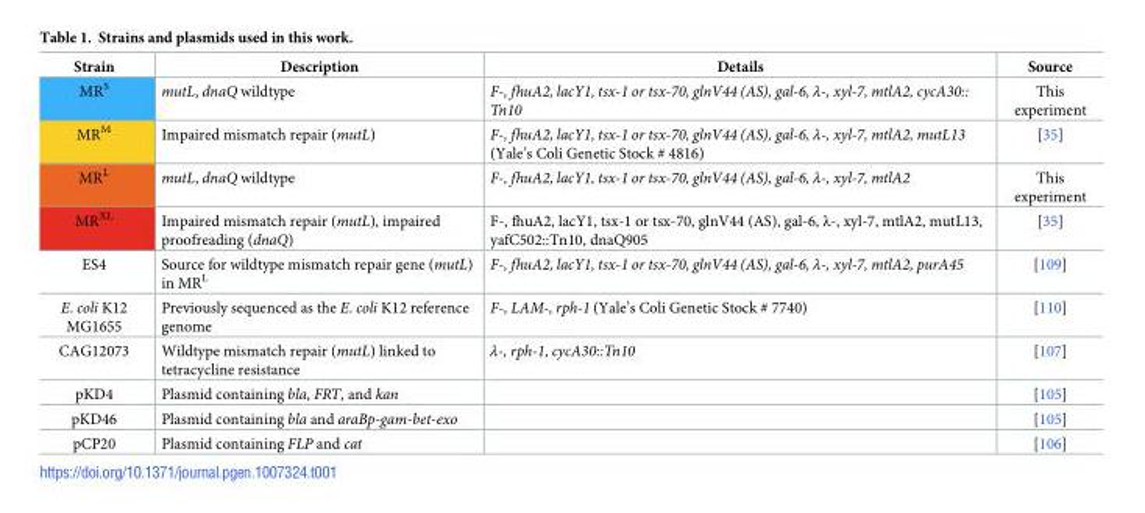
<table><thead><tr><td>Strain</td><td>Description</td><td>Details</td><td>Source</td></tr></thead><tbody><tr><td>MR<sup>S</sup></td><td>mutL, dnaQ wildtype</td><td>F-, fhuA2, lacY1, tsx-1 or tsx-70, glnV44 (AS), gal-6, λ-, xyl-7, mtlA2, cycA30:: Tn10</td><td>This experiment</td></tr><tr><td>MR<sup>M</sup></td><td>Impaired mismatch repair (mutL)</td><td>F-, fhuA2, lacY1, tsx-1 or tsx-70, glnV44 (AS), gal-6, λ-, xyl-7, mtlA2, mutL13 (Yale’s Coli Genetic Stock # 4816)</td><td>[35]</td></tr><tr><td>MR<sup>L</sup></td><td>mutL, dnaQ wildtype</td><td>F-, fhuA2, lacY1, tsx-1 or tsx-70, glnV44 (AS), gal-6, λ-, xyl-7, mtlA2</td><td>This experiment</td></tr><tr><td>MR<sup>XL</sup></td><td>Impaired mismatch repair (mutL), impaired proofreading (dnaQ)</td><td>F-, fhuA2, lacY1, tsx-1 or tsx-70, glnV44 (AS), gal-6, λ-, xyl-7, mtlA2, mutL13, yafC502::Tn10, dnaQ905</td><td>[35]</td></tr><tr><td>ES4</td><td>Source for wildtype mismatch repair gene (mutL) in MR<sup>L</sup></td><td>F-, fhuA2, lacY1, tsx-1 or tsx-70, glnV44 (AS), gal-6, λ-, xyl-7, mtlA2, purA45</td><td>[109]</td></tr><tr><td>E. coli K12 MG1655</td><td>Previously sequenced as the E. coli K12 reference genome</td><td>F-, LAM-, rph-1 (Yale’s Coli Genetic Stock # 7740)</td><td>[110]</td></tr><tr><td>CAG12073</td><td>Wildtype mismatch repair (mutL) linked to tetracycline resistance</td><td>λ-, rph-1, cycA30::Tn10</td><td>[107]</td></tr><tr><td>pKD4</td><td>Plasmid containing bla, FRT, and kan</td><td></td><td>[105]</td></tr><tr><td>pKD46</td><td>Plasmid containing bla and araBp-gam-bet-exo</td><td></td><td>[105]</td></tr><tr><td>pCP20</td><td>Plasmid containing FLP and cat</td><td></td><td>[106]</td></tr></tbody></table>